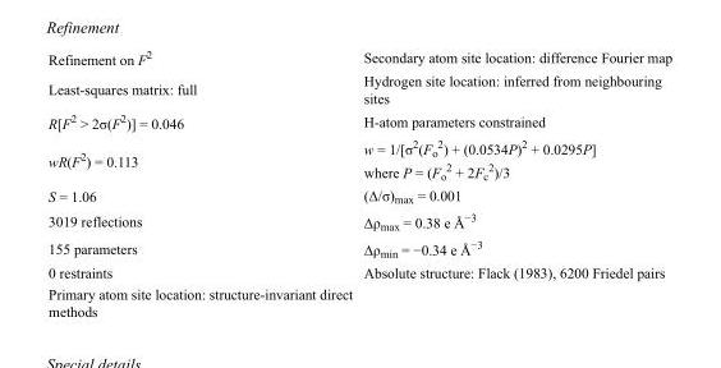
<table><tbody><tr><td>Refinement on F<sup>2</sup></td><td>Secondary atom site location: difference Fourier map</td></tr><tr><td>Least-squares matrix: full</td><td>Hydrogen site location: inferred from neighbouring sites</td></tr><tr><td>R[F<sup>2</sup> &gt; 2σ(F<sup>2</sup>)] = 0.046</td><td>H-atom parameters constrained</td></tr><tr><td>wR(F<sup>2</sup>) = 0.113</td><td>w = 1/[σ<sup>2</sup>(F<sub>o</sub> <sup>2</sup>) + (0.0534P)<sup>2</sup> + 0.0295P] where P = (F<sub>o</sub> <sup>2</sup> + 2F<sub>c</sub> <sup>2</sup>)/3</td></tr><tr><td>S = 1.06</td><td>(Δ/σ)<sub>max</sub> = 0.001</td></tr><tr><td>3019 reflections</td><td>Δρ<sub>max</sub> = 0.38 e Å<sup>−3</sup></td></tr><tr><td>155 parameters</td><td>Δρ<sub>min</sub> = −0.34 e Å<sup>−3</sup></td></tr><tr><td>0 restraints</td><td>Absolute structure: Flack (1983), 6200 Friedel pairs</td></tr><tr><td>Primary atom site location: structure-invariant direct methods</td><td></td></tr></tbody></table>